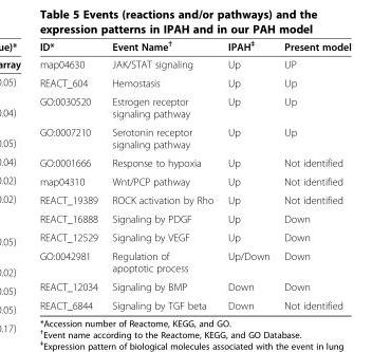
<table><thead><tr><td>ID*</td><td>Event Name<sup>†</sup></td><td>IPAH<sup>‡</sup></td><td>Present model</td></tr></thead><tbody><tr><td>map04630</td><td>JAK/STAT signaling</td><td>Up</td><td>UP</td></tr><tr><td>REACT_604</td><td>Hemostasis</td><td>Up</td><td>Up</td></tr><tr><td>GO:0030520</td><td>Estrogen receptor signaling pathway</td><td>Up</td><td>Up</td></tr><tr><td>GO:0007210</td><td>Serotonin receptor signaling pathway</td><td>Up</td><td>Up</td></tr><tr><td>GO:0001666</td><td>Response to hypoxia</td><td>Up</td><td>Not identified</td></tr><tr><td>map04310</td><td>Wnt/PCP pathway</td><td>Up</td><td>Not identified</td></tr><tr><td>REACT_19389</td><td>ROCK activation by Rho</td><td>Up</td><td>Not identified</td></tr><tr><td>REACT_16888</td><td>Signaling by PDGF</td><td>Up</td><td>Down</td></tr><tr><td>REACT_12529</td><td>Signaling by VEGF</td><td>Up</td><td>Down</td></tr><tr><td>GO:0042981</td><td>Regulation of apoptotic process</td><td>Up/Down</td><td>Down</td></tr><tr><td>REACT_12034</td><td>Signaling by BMP</td><td>Down</td><td>Down</td></tr><tr><td>REACT_6844</td><td>Signaling by TGF beta</td><td>Down</td><td>Not identified</td></tr></tbody></table>